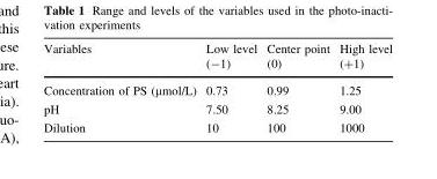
<table><thead><tr><td>Variables</td><td>Low level (-1)</td><td>Center point (0)</td><td>High level (+1)</td></tr></thead><tbody><tr><td>Concentration of PS (µmol/L)</td><td>0.73</td><td>0.99</td><td>1.25</td></tr><tr><td>pH</td><td>7.50</td><td>8.25</td><td>9.00</td></tr><tr><td>Dilution</td><td>10</td><td>100</td><td>1000</td></tr></tbody></table>